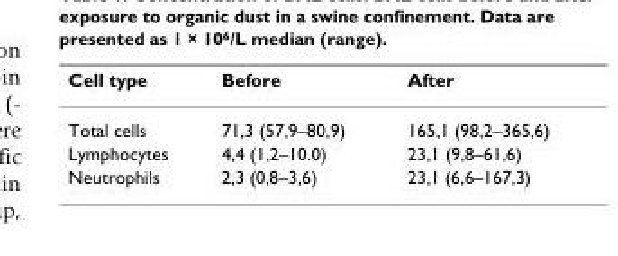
<table><thead><tr><td>Cell type</td><td>Before</td><td>After</td></tr></thead><tbody><tr><td>Total cells</td><td>71,3 (57,9–80,9)</td><td>165,1 (98,2–365,6)</td></tr><tr><td>Lymphocytes</td><td>4,4 (1,2–10.0)</td><td>23,1 (9,8–61,6)</td></tr><tr><td>Neutrophils</td><td>2,3 (0,8–3,6)</td><td>23,1 (6,6–167,3)</td></tr></tbody></table>